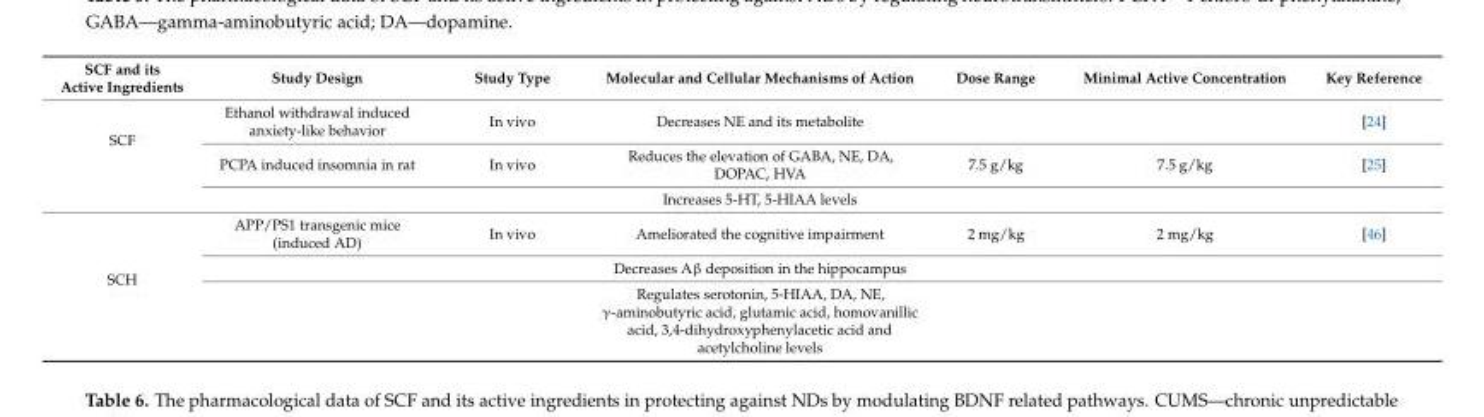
<table><thead><tr><td>SCF and its Active Ingredients</td><td>Study Design</td><td>Study Type</td><td>Molecular and Cellular Mechanisms of Action</td><td>Dose Range</td><td>Minimal Active Concentration</td><td>Key Reference</td></tr></thead><tbody><tr><td rowspan="3">SCF</td><td>Ethanol withdrawal induced anxiety-like behavior</td><td>In vivo</td><td>Decreases NE and its metabolite</td><td></td><td></td><td>[24]</td></tr><tr><td>PCPA induced insomnia in rat</td><td>In vivo</td><td>Reduces the elevation of GABA, NE, DA, DOPAC, HVA</td><td>7.5 g/kg</td><td>7.5 g/kg</td><td>[25]</td></tr><tr><td></td><td></td><td>Increases 5-HT, 5-HIAA levels</td><td></td><td></td><td></td></tr><tr><td rowspan="3">SCH</td><td>APP/PS1 transgenic mice (induced AD)</td><td>In vivo</td><td>Ameliorated the cognitive impairment</td><td>2 mg/kg</td><td>2 mg/kg</td><td>[46]</td></tr><tr><td></td><td></td><td>Decreases Aβ deposition in the hippocampus</td><td></td><td></td><td></td></tr><tr><td></td><td></td><td>Regulates serotonin, 5-HIAA, DA, NE, γ-aminobutyric acid, glutamic acid, homovanillic acid, 3,4-dihydroxyphenylacetic acid and acetylcholine levels</td><td></td><td></td><td></td></tr></tbody></table>